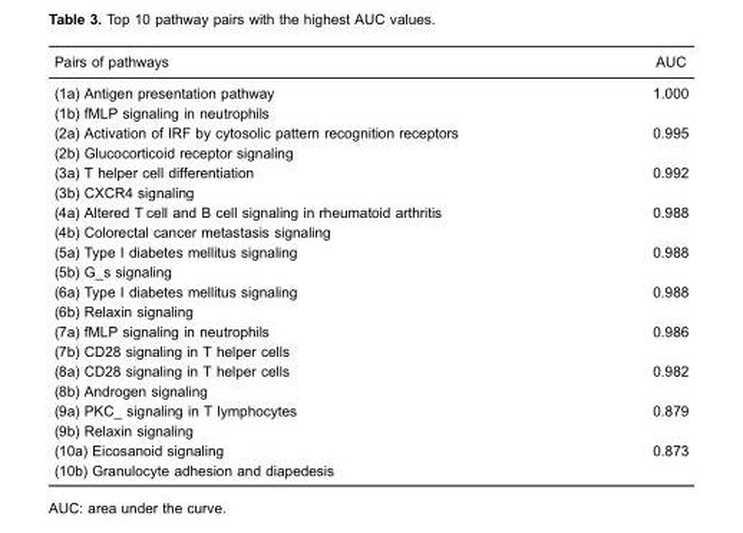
<table><thead><tr><td>Pairs of pathways</td><td>AUC</td></tr></thead><tbody><tr><td>(1a) Antigen presentation pathway (1b) fMLP signaling in neutrophils</td><td>1.000</td></tr><tr><td>(2a) Activation of IRF by cytosolic pattern recognition receptors (2b) Glucocorticoid receptor signaling</td><td>0.995</td></tr><tr><td>(3a) T helper cell differentiation (3b) CXCR4 signaling</td><td>0.992</td></tr><tr><td>(4a) Altered T cell and B cell signaling in rheumatoid arthritis (4b) Colorectal cancer metastasis signaling</td><td>0.988</td></tr><tr><td>(5a) Type I diabetes mellitus signaling (5b) G_s signaling</td><td>0.988</td></tr><tr><td>(6a) Type I diabetes mellitus signaling (6b) Relaxin signaling</td><td>0.988</td></tr><tr><td>(7a) fMLP signaling in neutrophils (7b) CD28 signaling in T helper cells</td><td>0.986</td></tr><tr><td>(8a) CD28 signaling in T helper cells (8b) Androgen signaling</td><td>0.982</td></tr><tr><td>(9a) PKC_ signaling in T lymphocytes (9b) Relaxin signaling</td><td>0.879</td></tr><tr><td>(10a) Eicosanoid signaling (10b) Granulocyte adhesion and diapedesis</td><td>0.873</td></tr></tbody></table>